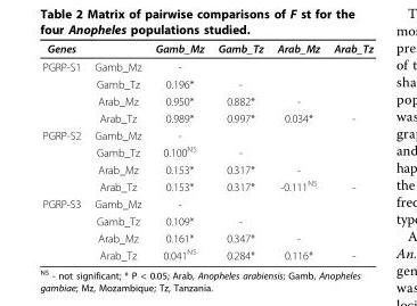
<table><thead><tr><td>Genes</td><td></td><td>Gamb_Mz</td><td>Gamb_Tz</td><td>Arab_Mz</td><td>Arab_Tz</td></tr></thead><tbody><tr><td rowspan="4">PGRP-S1</td><td>Gamb_Mz</td><td>-</td><td></td><td></td><td></td></tr><tr><td>Gamb_Tz</td><td>0.196*</td><td>-</td><td></td><td></td></tr><tr><td>Arab_Mz</td><td>0.950*</td><td>0.882*</td><td>-</td><td></td></tr><tr><td>Arab_Tz</td><td>0.989*</td><td>0.997*</td><td>0.034*</td><td>-</td></tr><tr><td rowspan="4">PGRP-S2</td><td>Gamb_Mz</td><td>-</td><td></td><td></td><td></td></tr><tr><td>Gamb_Tz</td><td>0.100<sup>NS</sup></td><td>-</td><td></td><td></td></tr><tr><td>Arab_Mz</td><td>0.153*</td><td>0.317*</td><td>-</td><td></td></tr><tr><td>Arab_Tz</td><td>0.153*</td><td>0.317*</td><td>-0.111<sup>NS</sup></td><td>-</td></tr><tr><td rowspan="4">PGRP-S3</td><td>Gamb_Mz</td><td>-</td><td></td><td></td><td></td></tr><tr><td>Gamb_Tz</td><td>0.109*</td><td>-</td><td></td><td></td></tr><tr><td>Arab_Mz</td><td>0.161*</td><td>0.347*</td><td>-</td><td></td></tr><tr><td>Arab_Tz</td><td>0.041<sup>NS</sup></td><td>0.284*</td><td>0.116*</td><td>-</td></tr></tbody></table>